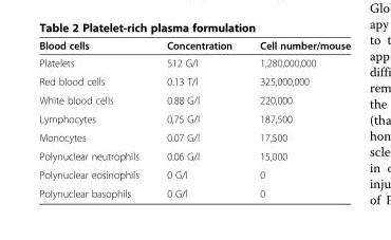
<table><thead><tr><td>Blood cells</td><td>Concentration</td><td>Cell number/mouse</td></tr></thead><tbody><tr><td>Platelets</td><td>512 G/l</td><td>1,280,000,000</td></tr><tr><td>Red blood cells</td><td>0.13 T/l</td><td>325,000,000</td></tr><tr><td>White blood cells</td><td>0.88 G/l</td><td>220,000</td></tr><tr><td>Lymphocytes</td><td>0,75 G/l</td><td>187,500</td></tr><tr><td>Monocytes</td><td>0.07 G/l</td><td>17,500</td></tr><tr><td>Polynuclear neutrophils</td><td>0.06 G/l</td><td>15,000</td></tr><tr><td>Polynuclear eosinophils</td><td>0 G/l</td><td>0</td></tr><tr><td>Polynuclear basophils</td><td>0 G/l</td><td>0</td></tr></tbody></table>